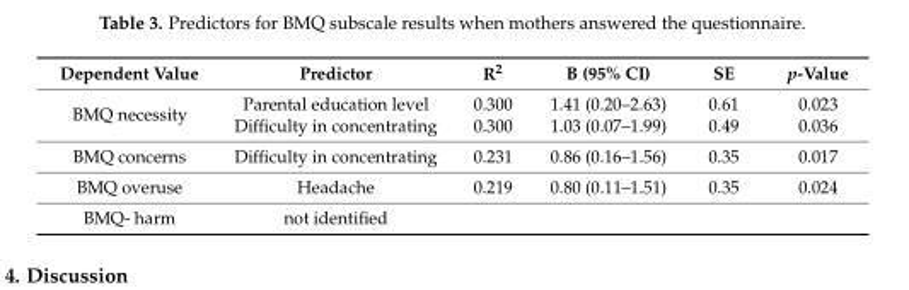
<table><thead><tr><td>Dependent Value</td><td>Predictor</td><td>R<sup>2</sup></td><td>B (95% CI)</td><td>SE</td><td>p-Value</td></tr></thead><tbody><tr><td rowspan="2">BMQ necessity</td><td>Parental education level</td><td>0.300</td><td>1.41 (0.20–2.63)</td><td>0.61</td><td>0.023</td></tr><tr><td>Difficulty in concentrating</td><td>0.300</td><td>1.03 (0.07–1.99)</td><td>0.49</td><td>0.036</td></tr><tr><td>BMQ concerns</td><td>Difficulty in concentrating</td><td>0.231</td><td>0.86 (0.16–1.56)</td><td>0.35</td><td>0.017</td></tr><tr><td>BMQ overuse</td><td>Headache</td><td>0.219</td><td>0.80 (0.11–1.51)</td><td>0.35</td><td>0.024</td></tr><tr><td>BMQ- harm</td><td>not identified</td><td></td><td></td><td></td><td></td></tr></tbody></table>